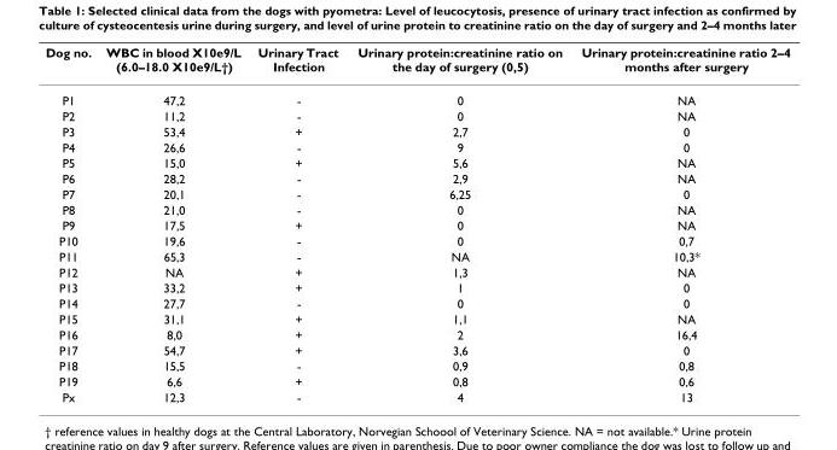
<table><thead><tr><td>Dog no.</td><td>WBC in blood X10e9/L (6.0–18.0 X10e9/L†)</td><td>Urinary Tract Infection</td><td>Urinary protein:creatinine ratio on the day of surgery (0,5)</td><td>Urinary protein:creatinine ratio 2–4 months after surgery</td></tr></thead><tbody><tr><td>P1</td><td>47,2</td><td>-</td><td>0</td><td>NA</td></tr><tr><td>P2</td><td>11,2</td><td>-</td><td>0</td><td>NA</td></tr><tr><td>P3</td><td>53,4</td><td>+</td><td>2,7</td><td>0</td></tr><tr><td>P4</td><td>26,6</td><td>-</td><td>9</td><td>0</td></tr><tr><td>P5</td><td>15,0</td><td>+</td><td>5,6</td><td>NA</td></tr><tr><td>P6</td><td>28,2</td><td>-</td><td>2,9</td><td>NA</td></tr><tr><td>P7</td><td>20,1</td><td>-</td><td>6,25</td><td>0</td></tr><tr><td>P8</td><td>21,0</td><td>-</td><td>0</td><td>NA</td></tr><tr><td>P9</td><td>17,5</td><td>+</td><td>0</td><td>NA</td></tr><tr><td>P10</td><td>19,6</td><td>-</td><td>0</td><td>0,7</td></tr><tr><td>P11</td><td>65,3</td><td>-</td><td>NA</td><td>10,3*</td></tr><tr><td>P12</td><td>NA</td><td>+</td><td>1,3</td><td>NA</td></tr><tr><td>P13</td><td>33,2</td><td>+</td><td>1</td><td>0</td></tr><tr><td>P14</td><td>27,7</td><td>-</td><td>0</td><td>0</td></tr><tr><td>P15</td><td>31,1</td><td>+</td><td>1,1</td><td>NA</td></tr><tr><td>P16</td><td>8,0</td><td>+</td><td>2</td><td>16,4</td></tr><tr><td>P17</td><td>54,7</td><td>+</td><td>3,6</td><td>0</td></tr><tr><td>P18</td><td>15,5</td><td>-</td><td>0,9</td><td>0,8</td></tr><tr><td>P19</td><td>6,6</td><td>+</td><td>0,8</td><td>0,6</td></tr><tr><td>Px</td><td>12,3</td><td>-</td><td>4</td><td>13</td></tr></tbody></table>